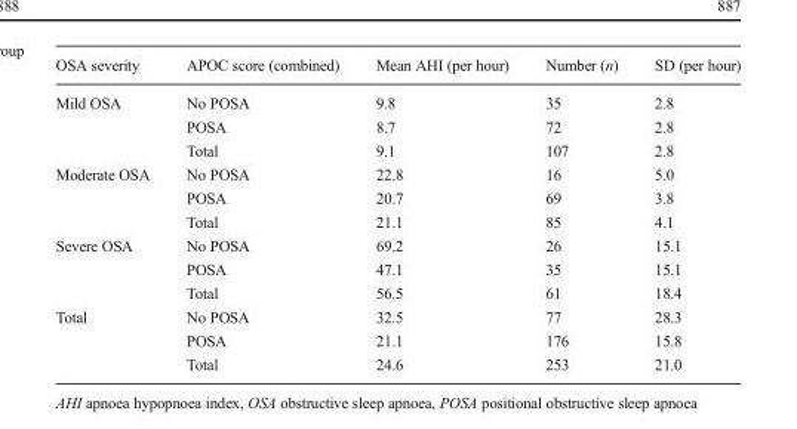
<table><thead><tr><td>OSA severity</td><td>APOC score (combined)</td><td>Mean AHI (per hour)</td><td>Number (n)</td><td>SD (per hour)</td></tr></thead><tbody><tr><td rowspan="3">Mild OSA</td><td>No POSA</td><td>9.8</td><td>35</td><td>2.8</td></tr><tr><td>POSA</td><td>8.7</td><td>72</td><td>2.8</td></tr><tr><td>Total</td><td>9.1</td><td>107</td><td>2.8</td></tr><tr><td rowspan="3">Moderate OSA</td><td>No POSA</td><td>22.8</td><td>16</td><td>5.0</td></tr><tr><td>POSA</td><td>20.7</td><td>69</td><td>3.8</td></tr><tr><td>Total</td><td>21.1</td><td>85</td><td>4.1</td></tr><tr><td rowspan="3">Severe OSA</td><td>No POSA</td><td>69.2</td><td>26</td><td>15.1</td></tr><tr><td>POSA</td><td>47.1</td><td>35</td><td>15.1</td></tr><tr><td>Total</td><td>56.5</td><td>61</td><td>18.4</td></tr><tr><td rowspan="3">Total</td><td>No POSA</td><td>32.5</td><td>77</td><td>28.3</td></tr><tr><td>POSA</td><td>21.1</td><td>176</td><td>15.8</td></tr><tr><td>Total</td><td>24.6</td><td>253</td><td>21.0</td></tr></tbody></table>